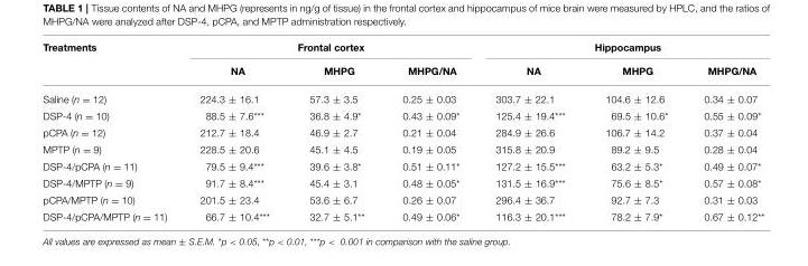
<table><thead><tr><td rowspan="2">Treatments</td><td colspan="3">Frontal cortex</td><td colspan="3">Hippocampus</td></tr><tr><td>NA</td><td>MHPG</td><td>MHPG/NA</td><td>NA</td><td>MHPG</td><td>MHPG/NA</td></tr></thead><tbody><tr><td>Saline (n = 12)</td><td>224.3 ± 16.1</td><td>57.3 ± 3.5</td><td>0.25 ± 0.03</td><td>303.7 ± 22.1</td><td>104.6 ± 12.6</td><td>0.34 ± 0.07</td></tr><tr><td>DSP-4 (n = 10)</td><td>88.5 ± 7.6***</td><td>36.8 ± 4.9*</td><td>0.43 ± 0.09*</td><td>125.4 ± 19.4***</td><td>69.5 ± 10.6*</td><td>0.55 ± 0.09*</td></tr><tr><td>pCPA (n = 12)</td><td>212.7 ± 18.4</td><td>46.9 ± 2.7</td><td>0.21 ± 0.04</td><td>284.9 ± 26.6</td><td>106.7 ± 14.2</td><td>0.37 ± 0.04</td></tr><tr><td>MPTP (n = 9)</td><td>228.5 ± 20.6</td><td>45.1 ± 4.5</td><td>0.19 ± 0.05</td><td>315.8 ± 20.9</td><td>89.2 ± 9.5</td><td>0.28 ± 0.04</td></tr><tr><td>DSP-4/pCPA (n = 11)</td><td>79.5 ± 9.4***</td><td>39.6 ± 3.8*</td><td>0.51 ± 0.11*</td><td>127.2 ± 15.5***</td><td>63.2 ± 5.3*</td><td>0.49 ± 0.07*</td></tr><tr><td>DSP-4/MPTP (n = 9)</td><td>91.7 ± 8.4***</td><td>45.4 ± 3.1</td><td>0.48 ± 0.05*</td><td>131.5 ± 16.9***</td><td>75.6 ± 8.5*</td><td>0.57 ± 0.08*</td></tr><tr><td>pCPA/MPTP (n = 10)</td><td>201.5 ± 23.4</td><td>53.6 ± 6.7</td><td>0.26 ± 0.07</td><td>296.4 ± 36.7</td><td>92.7 ± 7.3</td><td>0.31 ± 0.03</td></tr><tr><td>DSP-4/pCPA/MPTP (n = 11)</td><td>66.7 ± 10.4***</td><td>32.7 ± 5.1**</td><td>0.49 ± 0.06*</td><td>116.3 ± 20.1***</td><td>78.2 ± 7.9*</td><td>0.67 ± 0.12**</td></tr></tbody></table>